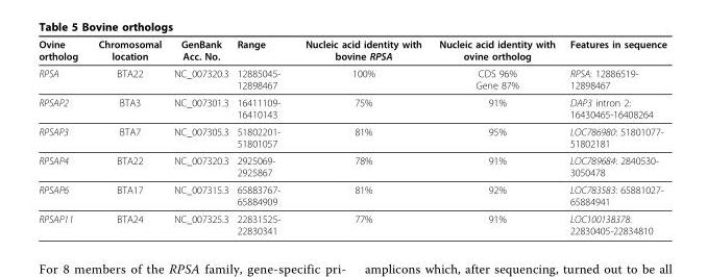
<table><thead><tr><td>Ovine ortholog</td><td>Chromosomal location</td><td>GenBank Acc. No.</td><td>Range</td><td>Nucleic acid identity with bovine RPSA</td><td>Nucleic acid identity with ovine ortholog</td><td>Features in sequence</td></tr></thead><tbody><tr><td>RPSA</td><td>BTA22</td><td>NC_007320.3</td><td>12885045- 12898467</td><td>100%</td><td>CDS 96% Gene 87%</td><td>RPSA: 12886519- 12898467</td></tr><tr><td>RPSAP2</td><td>BTA3</td><td>NC_007301.3</td><td>16411109- 16410143</td><td>75%</td><td>91%</td><td>DAP3 intron 2: 16430465-16408264</td></tr><tr><td>RPSAP3</td><td>BTA7</td><td>NC_007305.3</td><td>51802201- 51801057</td><td>81%</td><td>95%</td><td>LOC786980: 51801077- 51802181</td></tr><tr><td>RPSAP4</td><td>BTA22</td><td>NC_007320.3</td><td>2925069- 2925867</td><td>78%</td><td>91%</td><td>LOC789684: 2840530- 3050478</td></tr><tr><td>RPSAP6</td><td>BTA17</td><td>NC_007315.3</td><td>65883767- 65884909</td><td>81%</td><td>92%</td><td>LOC783583: 65881027- 65884941</td></tr><tr><td>RPSAP11</td><td>BTA24</td><td>NC_007325.3</td><td>22831525- 22830341</td><td>77%</td><td>91%</td><td>LOC100138378: 22830405-22834810</td></tr></tbody></table>